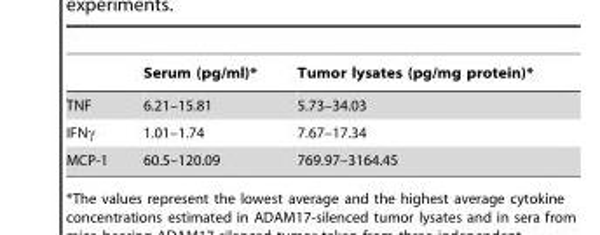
<table><thead><tr><td></td><td>Serum (pg/ml)*</td><td>Tumor lysates (pg/mg protein)*</td></tr></thead><tbody><tr><td>TNF</td><td>6.21–15.81</td><td>5.73–34.03</td></tr><tr><td>IFNγ</td><td>1.01–1.74</td><td>7.67–17.34</td></tr><tr><td>MCP-1</td><td>60.5–120.09</td><td>769.97–3164.45</td></tr></tbody></table>